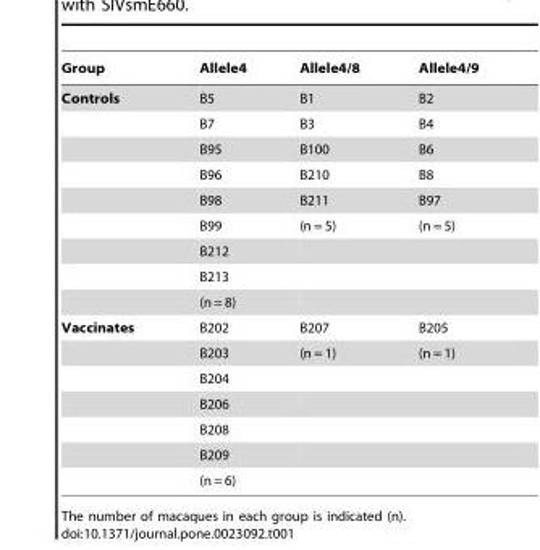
<table><thead><tr><td>Group</td><td>Allele4</td><td>Allele4/8</td><td>Allele4/9</td></tr></thead><tbody><tr><td rowspan="9">Controls</td><td>B5</td><td>B1</td><td>B2</td></tr><tr><td>B7</td><td>B3</td><td>B4</td></tr><tr><td>B95</td><td>B100</td><td>B6</td></tr><tr><td>B96</td><td>B210</td><td>B8</td></tr><tr><td>B98</td><td>B211</td><td>B97</td></tr><tr><td>B99</td><td>(n = 5)</td><td>(n = 5)</td></tr><tr><td>B212</td><td></td><td></td></tr><tr><td>B213</td><td></td><td></td></tr><tr><td>(n = 8)</td><td></td><td></td></tr><tr><td rowspan="7">Vaccinates</td><td>B202</td><td>B207</td><td>B205</td></tr><tr><td>B203</td><td>(n = 1)</td><td>(n = 1)</td></tr><tr><td>B204</td><td></td><td></td></tr><tr><td>B206</td><td></td><td></td></tr><tr><td>B208</td><td></td><td></td></tr><tr><td>B209</td><td></td><td></td></tr><tr><td>(n = 6)</td><td></td><td></td></tr></tbody></table>